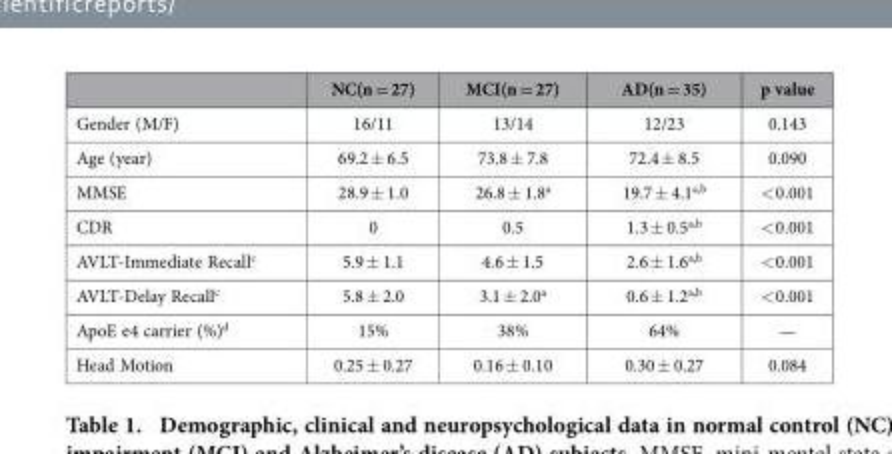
<table><thead><tr><td></td><td>NC(n = 27)</td><td>MCI(n = 27)</td><td>AD(n = 35)</td><td>p value</td></tr></thead><tbody><tr><td>Gender (M/F)</td><td>16/11</td><td>13/14</td><td>12/23</td><td>0.143</td></tr><tr><td>Age (year)</td><td>69.2 ± 6.5</td><td>73.8 ± 7.8</td><td>72.4 ± 8.5</td><td>0.090</td></tr><tr><td>MMSE</td><td>28.9 ± 1.0</td><td>26.8 ± 1.8<sup>a</sup></td><td>19.7 ± 4.1<sup>a</sup>,<sup>b</sup></td><td>&lt; 0.001</td></tr><tr><td>CDR</td><td>0</td><td>0.5</td><td>1.3 ± 0.5<sup>a</sup>,<sup>b</sup></td><td>&lt; 0.001</td></tr><tr><td>AVLT-Immediate Recall<sup>c</sup></td><td>5.9 ± 1.1</td><td>4.6 ± 1.5</td><td>2.6 ± 1.6<sup>a</sup>,<sup>b</sup></td><td>&lt; 0.001</td></tr><tr><td>AVLT-Delay Recall<sup>c</sup></td><td>5.8 ± 2.0</td><td>3.1 ± 2.0<sup>a</sup></td><td>0.6 ± 1.2<sup>a</sup>,<sup>b</sup></td><td>&lt; 0.001</td></tr><tr><td>ApoE e4 carrier (%)<sup>d</sup></td><td>15%</td><td>38%</td><td>64%</td><td>—</td></tr><tr><td>Head Motion</td><td>0.25 ± 0.27</td><td>0.16 ± 0.10</td><td>0.30 ± 0.27</td><td>0.084</td></tr></tbody></table>